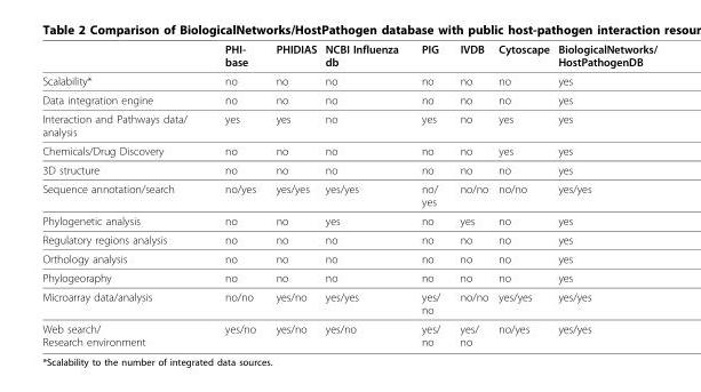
<table><thead><tr><td></td><td>PHI- base</td><td>PHIDIAS</td><td>NCBI Influenza db</td><td>PIG</td><td>IVDB</td><td>Cytoscape</td><td>BiologicalNetworks/ HostPathogenDB</td></tr></thead><tbody><tr><td>Scalability*</td><td>no</td><td>no</td><td>no</td><td>no</td><td>no</td><td>no</td><td>yes</td></tr><tr><td>Data integration engine</td><td>no</td><td>no</td><td>no</td><td>no</td><td>no</td><td>no</td><td>yes</td></tr><tr><td>Interaction and Pathways data/ analysis</td><td>yes</td><td>yes</td><td>no</td><td>yes</td><td>no</td><td>yes</td><td>yes</td></tr><tr><td>Chemicals/Drug Discovery</td><td>no</td><td>no</td><td>no</td><td>no</td><td>no</td><td>yes</td><td>yes</td></tr><tr><td>3D structure</td><td>no</td><td>no</td><td>no</td><td>no</td><td>no</td><td>no</td><td>yes</td></tr><tr><td>Sequence annotation/search</td><td>no/yes</td><td>yes/yes</td><td>yes/yes</td><td>no/ yes</td><td>no/no</td><td>no/no</td><td>yes/yes</td></tr><tr><td>Phylogenetic analysis</td><td>no</td><td>no</td><td>yes</td><td>no</td><td>yes</td><td>no</td><td>yes</td></tr><tr><td>Regulatory regions analysis</td><td>no</td><td>no</td><td>no</td><td>no</td><td>no</td><td>no</td><td>yes</td></tr><tr><td>Orthology analysis</td><td>no</td><td>no</td><td>no</td><td>no</td><td>no</td><td>no</td><td>yes</td></tr><tr><td>Phylogeoraphy</td><td>no</td><td>no</td><td>no</td><td>no</td><td>no</td><td>no</td><td>yes</td></tr><tr><td>Microarray data/analysis</td><td>no/no</td><td>yes/no</td><td>yes/yes</td><td>yes/ no</td><td>no/no</td><td>yes/yes</td><td>yes/yes</td></tr><tr><td>Web search/ Research environment</td><td>yes/no</td><td>yes/no</td><td>yes/no</td><td>yes/ no</td><td>yes/ no</td><td>no/yes</td><td>yes/yes</td></tr></tbody></table>